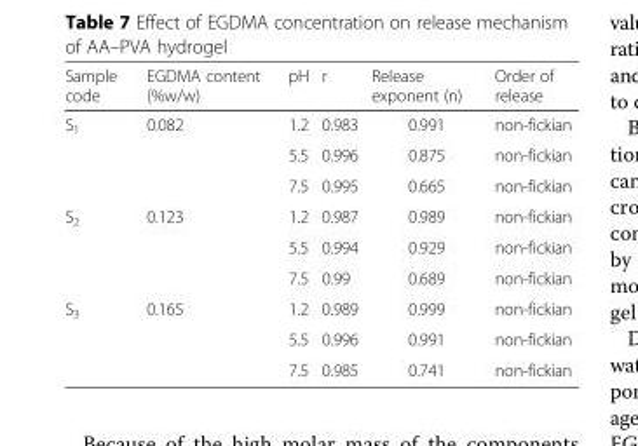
<table><thead><tr><td>Sample code</td><td>EGDMA content (%w/w)</td><td>pH</td><td>r</td><td>Release exponent (n)</td><td>Order of release</td></tr></thead><tbody><tr><td rowspan="3">S<sub>1</sub></td><td rowspan="3">0.082</td><td>1.2</td><td>0.983</td><td>0.991</td><td>non-fickian</td></tr><tr><td>5.5</td><td>0.996</td><td>0.875</td><td>non-fickian</td></tr><tr><td>7.5</td><td>0.995</td><td>0.665</td><td>non-fickian</td></tr><tr><td rowspan="3">S<sub>2</sub></td><td rowspan="3">0.123</td><td>1.2</td><td>0.987</td><td>0.989</td><td>non-fickian</td></tr><tr><td>5.5</td><td>0.994</td><td>0.929</td><td>non-fickian</td></tr><tr><td>7.5</td><td>0.99</td><td>0.689</td><td>non-fickian</td></tr><tr><td rowspan="3">S<sub>3</sub></td><td rowspan="3">0.165</td><td>1.2</td><td>0.989</td><td>0.999</td><td>non-fickian</td></tr><tr><td>5.5</td><td>0.996</td><td>0.991</td><td>non-fickian</td></tr><tr><td>7.5</td><td>0.985</td><td>0.741</td><td>non-fickian</td></tr></tbody></table>